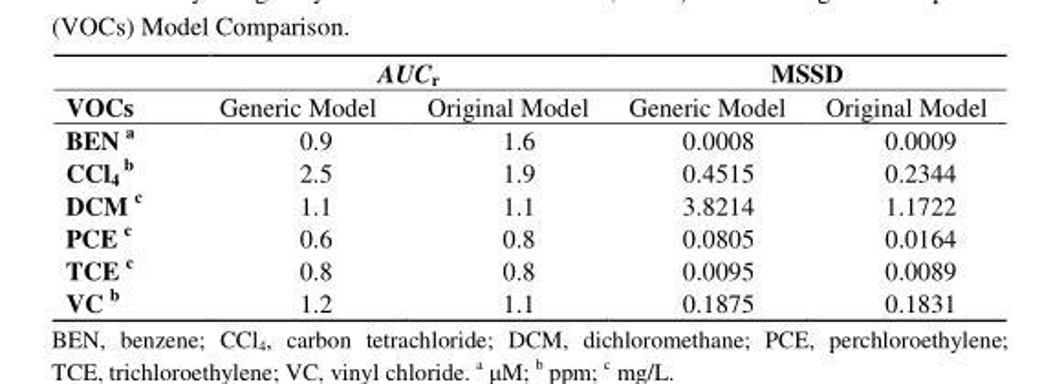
<table><thead><tr><td rowspan="2">VOCs</td><td colspan="2">AUC<sub>r</sub></td><td colspan="2">MSSD</td></tr><tr><td>Generic Model</td><td>Original Model</td><td>Generic Model</td><td>Original Model</td></tr></thead><tbody><tr><td>BEN <sup>a</sup></td><td>0.9</td><td>1.6</td><td>0.0008</td><td>0.0009</td></tr><tr><td>CCl<sub>4</sub> <sup>b</sup></td><td>2.5</td><td>1.9</td><td>0.4515</td><td>0.2344</td></tr><tr><td>DCM <sup>c</sup></td><td>1.1</td><td>1.1</td><td>3.8214</td><td>1.1722</td></tr><tr><td>PCE <sup>c</sup></td><td>0.6</td><td>0.8</td><td>0.0805</td><td>0.0164</td></tr><tr><td>TCE <sup>c</sup></td><td>0.8</td><td>0.8</td><td>0.0095</td><td>0.0089</td></tr><tr><td>VC <sup>b</sup></td><td>1.2</td><td>1.1</td><td>0.1875</td><td>0.1831</td></tr></tbody></table>